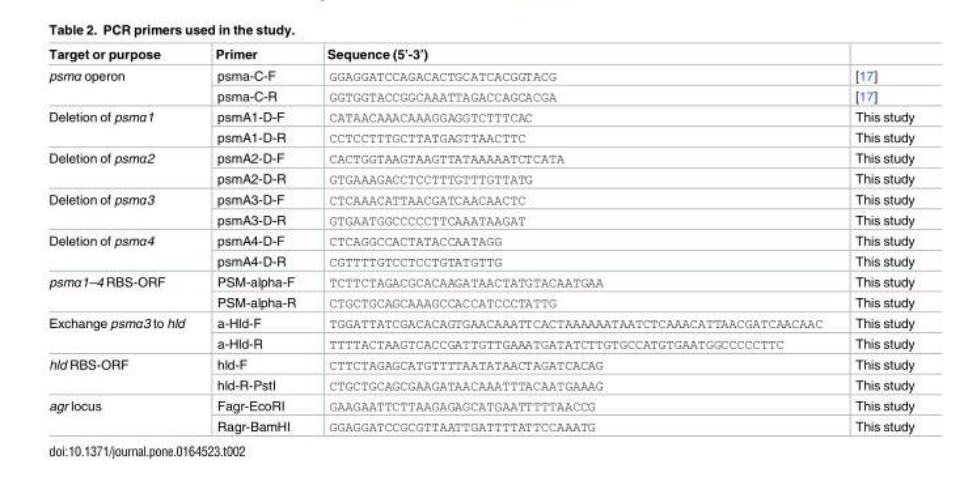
<table><thead><tr><td>Target or purpose</td><td>Primer</td><td>Sequence (5’-3’)</td><td></td></tr></thead><tbody><tr><td rowspan="2">psmα operon</td><td>psma-C-F</td><td>GGAGGATCCAGACACTGCATCACGGTACG</td><td>[17]</td></tr><tr><td>psma-C-R</td><td>GGTGGTACCGGCAAATTAGACCAGCACGA</td><td>[17]</td></tr><tr><td rowspan="2">Deletion of psmα1</td><td>psmA1-D-F</td><td>CATAACAAACAAAGGAGGTCTTTCAC</td><td>This study</td></tr><tr><td>psmA1-D-R</td><td>CCTCCTTTGCTTATGAGTTAACTTC</td><td>This study</td></tr><tr><td rowspan="2">Deletion of psmα2</td><td>psmA2-D-F</td><td>CACTGGTAAGTAAGTTATAAAAATCTCATA</td><td>This study</td></tr><tr><td>psmA2-D-R</td><td>GTGAAAGACCTCCTTTGTTTGTTATG</td><td>This study</td></tr><tr><td rowspan="2">Deletion of psmα3</td><td>psmA3-D-F</td><td>CTCAAACATTAACGATCAACAACTC</td><td>This study</td></tr><tr><td>psmA3-D-R</td><td>GTGAATGGCCCCCTTCAAATAAGAT</td><td>This study</td></tr><tr><td rowspan="2">Deletion of psmα4</td><td>psmA4-D-F</td><td>CTCAGGCCACTATACCAATAGG</td><td>This study</td></tr><tr><td>psmA4-D-R</td><td>CGTTTTGTCCTCCTGTATGTTG</td><td>This study</td></tr><tr><td rowspan="2">psmα1–4 RBS-ORF</td><td>PSM-alpha-F</td><td>TCTTCTAGACGCACAAGATAACTATGTACAATGAA</td><td>This study</td></tr><tr><td>PSM-alpha-R</td><td>CTGCTGCAGCAAAGCCACCATCCCTATTG</td><td>This study</td></tr><tr><td rowspan="2">Exchange psmα3 to hld</td><td>a-Hld-F</td><td>TGGATTATCGACACAGTGAACAAATTCACTAAAAAATAATCTCAAACATTAACGATCAACAAC</td><td>This study</td></tr><tr><td>a-Hld-R</td><td>TTTTACTAAGTCACCGATTGTTGAAATGATATCTTGTGCCATGTGAATGGCCCCCTTC</td><td>This study</td></tr><tr><td rowspan="2">hld RBS-ORF</td><td>hld-F</td><td>CTTCTAGAGCATGTTTTAATATAACTAGATCACAG</td><td>This study</td></tr><tr><td>hld-R-PstI</td><td>CTGCTGCAGCGAAGATAACAAATTTACAATGAAAG</td><td>This study</td></tr><tr><td rowspan="2">agr locus</td><td>Fagr-EcoRI</td><td>GAAGAATTCTTAAGAGAGCATGAATTTTTAACCG</td><td>This study</td></tr><tr><td>Ragr-BamHI</td><td>GGAGGATCCGCGTTAATTGATTTTATTCCAAATG</td><td>This study</td></tr></tbody></table>